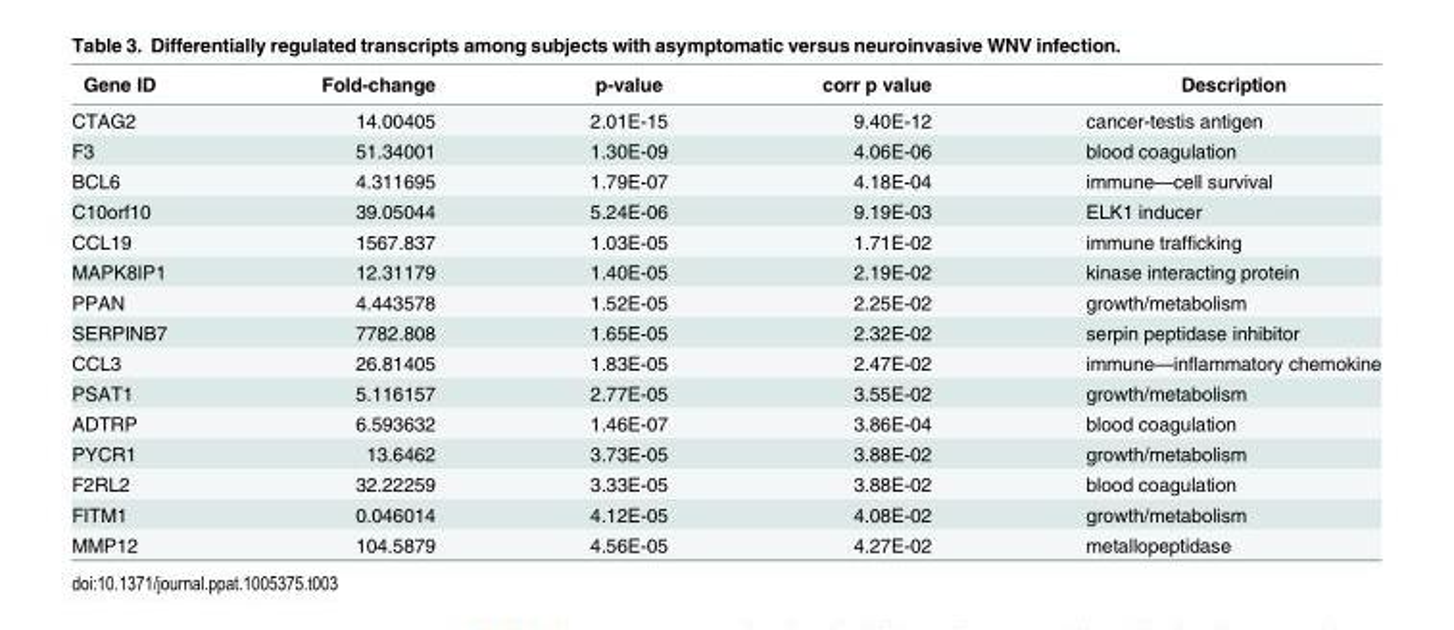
<table><thead><tr><td>Gene ID</td><td>Fold-change</td><td>p-value</td><td>corr p value</td><td>Description</td></tr></thead><tbody><tr><td>CTAG2</td><td>14.00405</td><td>2.01E-15</td><td>9.40E-12</td><td>cancer-testis antigen</td></tr><tr><td>F3</td><td>51.34001</td><td>1.30E-09</td><td>4.06E-06</td><td>blood coagulation</td></tr><tr><td>BCL6</td><td>4.311695</td><td>1.79E-07</td><td>4.18E-04</td><td>immune—cell survival</td></tr><tr><td>C10orf10</td><td>39.05044</td><td>5.24E-06</td><td>9.19E-03</td><td>ELK1 inducer</td></tr><tr><td>CCL19</td><td>1567.837</td><td>1.03E-05</td><td>1.71E-02</td><td>immune trafficking</td></tr><tr><td>MAPK8IP1</td><td>12.31179</td><td>1.40E-05</td><td>2.19E-02</td><td>kinase interacting protein</td></tr><tr><td>PPAN</td><td>4.443578</td><td>1.52E-05</td><td>2.25E-02</td><td>growth/metabolism</td></tr><tr><td>SERPINB7</td><td>7782.808</td><td>1.65E-05</td><td>2.32E-02</td><td>serpin peptidase inhibitor</td></tr><tr><td>CCL3</td><td>26.81405</td><td>1.83E-05</td><td>2.47E-02</td><td>immune—inflammatory chemokine</td></tr><tr><td>PSAT1</td><td>5.116157</td><td>2.77E-05</td><td>3.55E-02</td><td>growth/metabolism</td></tr><tr><td>ADTRP</td><td>6.593632</td><td>1.46E-07</td><td>3.86E-04</td><td>blood coagulation</td></tr><tr><td>PYCR1</td><td>13.6462</td><td>3.73E-05</td><td>3.88E-02</td><td>growth/metabolism</td></tr><tr><td>F2RL2</td><td>32.22259</td><td>3.33E-05</td><td>3.88E-02</td><td>blood coagulation</td></tr><tr><td>FITM1</td><td>0.046014</td><td>4.12E-05</td><td>4.08E-02</td><td>growth/metabolism</td></tr><tr><td>MMP12</td><td>104.5879</td><td>4.56E-05</td><td>4.27E-02</td><td>metallopeptidase</td></tr></tbody></table>